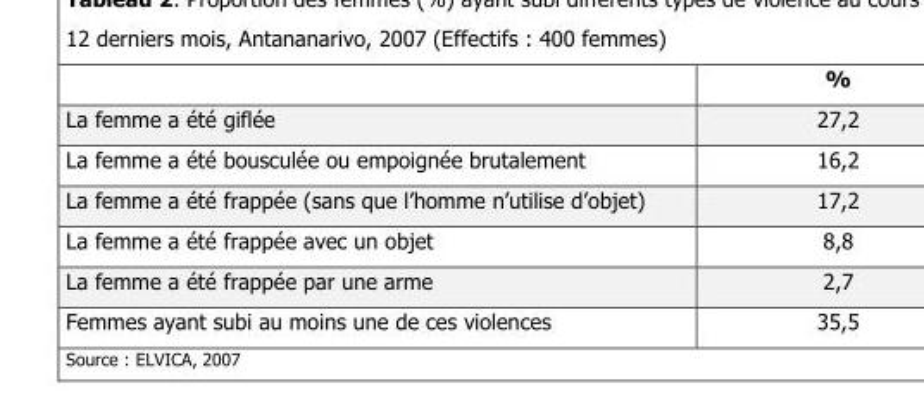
<table><thead><tr><td></td><td>%</td></tr></thead><tbody><tr><td>La femme a été giflée</td><td>27,2</td></tr><tr><td>La femme a été bousculée ou empoignée brutalement</td><td>16,2</td></tr><tr><td>La femme a été frappée (sans que l’homme n’utilise d’objet)</td><td>17,2</td></tr><tr><td>La femme a été frappée avec un objet</td><td>8,8</td></tr><tr><td>La femme a été frappée par une arme</td><td>2,7</td></tr><tr><td>Femmes ayant subi au moins une de ces violences</td><td>35,5</td></tr></tbody></table>